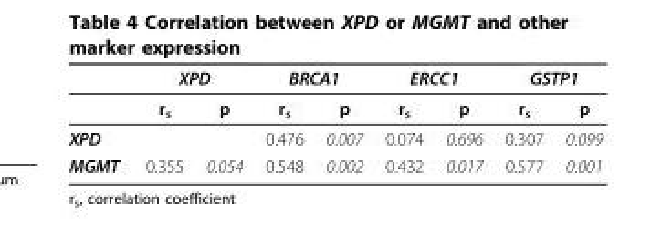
<table><thead><tr><td rowspan="2"></td><td colspan="2">XPD</td><td colspan="2">BRCA1</td><td colspan="2">ERCC1</td><td colspan="2">GSTP1</td></tr><tr><td>r<sub>s</sub></td><td>p</td><td>r<sub>s</sub></td><td>p</td><td>r<sub>s</sub></td><td>p</td><td>r<sub>s</sub></td><td>p</td></tr></thead><tbody><tr><td>XPD</td><td></td><td></td><td>0.476</td><td>0.007</td><td>0.074</td><td>0.696</td><td>0.307</td><td>0.099</td></tr><tr><td>MGMT</td><td>0.355</td><td>0.054</td><td>0.548</td><td>0.002</td><td>0.432</td><td>0.017</td><td>0.577</td><td>0.001</td></tr></tbody></table>